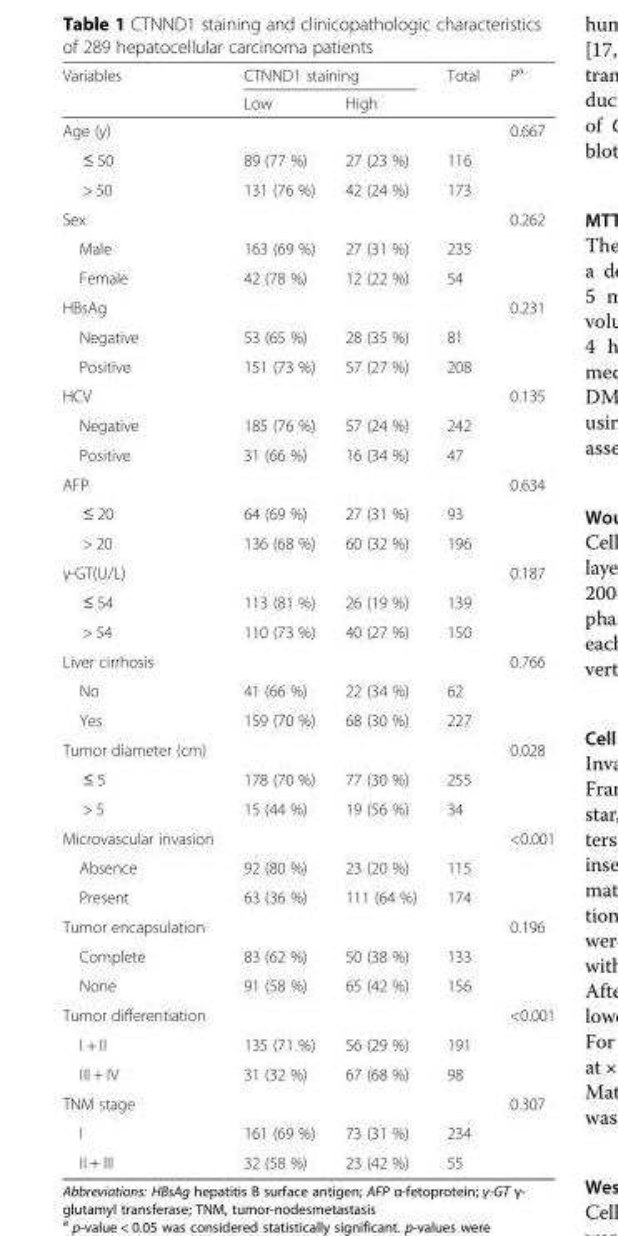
<table><thead><tr><td rowspan="2">Variables</td><td colspan="2">CTNND1 staining</td><td rowspan="2">Total</td><td rowspan="2">P<sup>a</sup></td></tr><tr><td>Low</td><td>High</td></tr></thead><tbody><tr><td colspan="4">Age (y)</td><td rowspan="3">0.667</td></tr><tr><td>≤ 50</td><td>89 (77 %)</td><td>27 (23 %)</td><td>116</td></tr><tr><td>&gt; 50</td><td>131 (76 %)</td><td>42 (24 %)</td><td>173</td></tr><tr><td colspan="4">Sex</td><td rowspan="3">0.262</td></tr><tr><td>Male</td><td>163 (69 %)</td><td>27 (31 %)</td><td>235</td></tr><tr><td>Female</td><td>42 (78 %)</td><td>12 (22 %)</td><td>54</td></tr><tr><td colspan="4">HBsAg</td><td rowspan="3">0.231</td></tr><tr><td>Negative</td><td>53 (65 %)</td><td>28 (35 %)</td><td>81</td></tr><tr><td>Positive</td><td>151 (73 %)</td><td>57 (27 %)</td><td>208</td></tr><tr><td colspan="4">HCV</td><td rowspan="3">0.135</td></tr><tr><td>Negative</td><td>185 (76 %)</td><td>57 (24 %)</td><td>242</td></tr><tr><td>Positive</td><td>31 (66 %)</td><td>16 (34 %)</td><td>47</td></tr><tr><td colspan="4">AFP</td><td rowspan="3">0.634</td></tr><tr><td>≤ 20</td><td>64 (69 %)</td><td>27 (31 %)</td><td>93</td></tr><tr><td>&gt; 20</td><td>136 (68 %)</td><td>60 (32 %)</td><td>196</td></tr><tr><td colspan="4">γ-GT(U/L)</td><td rowspan="3">0.187</td></tr><tr><td>≤ 54</td><td>113 (81 %)</td><td>26 (19 %)</td><td>139</td></tr><tr><td>&gt; 54</td><td>110 (73 %)</td><td>40 (27 %)</td><td>150</td></tr><tr><td colspan="4">Liver cirrhosis</td><td rowspan="3">0.766</td></tr><tr><td>No</td><td>41 (66 %)</td><td>22 (34 %)</td><td>62</td></tr><tr><td>Yes</td><td>159 (70 %)</td><td>68 (30 %)</td><td>227</td></tr><tr><td colspan="4">Tumor diameter (cm)</td><td rowspan="3">0.028</td></tr><tr><td>≤ 5</td><td>178 (70 %)</td><td>77 (30 %)</td><td>255</td></tr><tr><td>&gt; 5</td><td>15 (44 %)</td><td>19 (56 %)</td><td>34</td></tr><tr><td colspan="4">Microvascular invasion</td><td rowspan="3">&lt;0.001</td></tr><tr><td>Absence</td><td>92 (80 %)</td><td>23 (20 %)</td><td>115</td></tr><tr><td>Present</td><td>63 (36 %)</td><td>111 (64 %)</td><td>174</td></tr><tr><td colspan="4">Tumor encapsulation</td><td rowspan="3">0.196</td></tr><tr><td>Complete</td><td>83 (62 %)</td><td>50 (38 %)</td><td>133</td></tr><tr><td>None</td><td>91 (58 %)</td><td>65 (42 %)</td><td>156</td></tr><tr><td colspan="4">Tumor differentiation</td><td rowspan="3">&lt;0.001</td></tr><tr><td>I + II</td><td>135 (71 %)</td><td>56 (29 %)</td><td>191</td></tr><tr><td>III + IV</td><td>31 (32 %)</td><td>67 (68 %)</td><td>98</td></tr><tr><td colspan="4">TNM stage</td><td rowspan="3">0.307</td></tr><tr><td>I</td><td>161 (69 %)</td><td>73 (31 %)</td><td>234</td></tr><tr><td>II + III</td><td>32 (58 %)</td><td>23 (42 %)</td><td>55</td></tr></tbody></table>